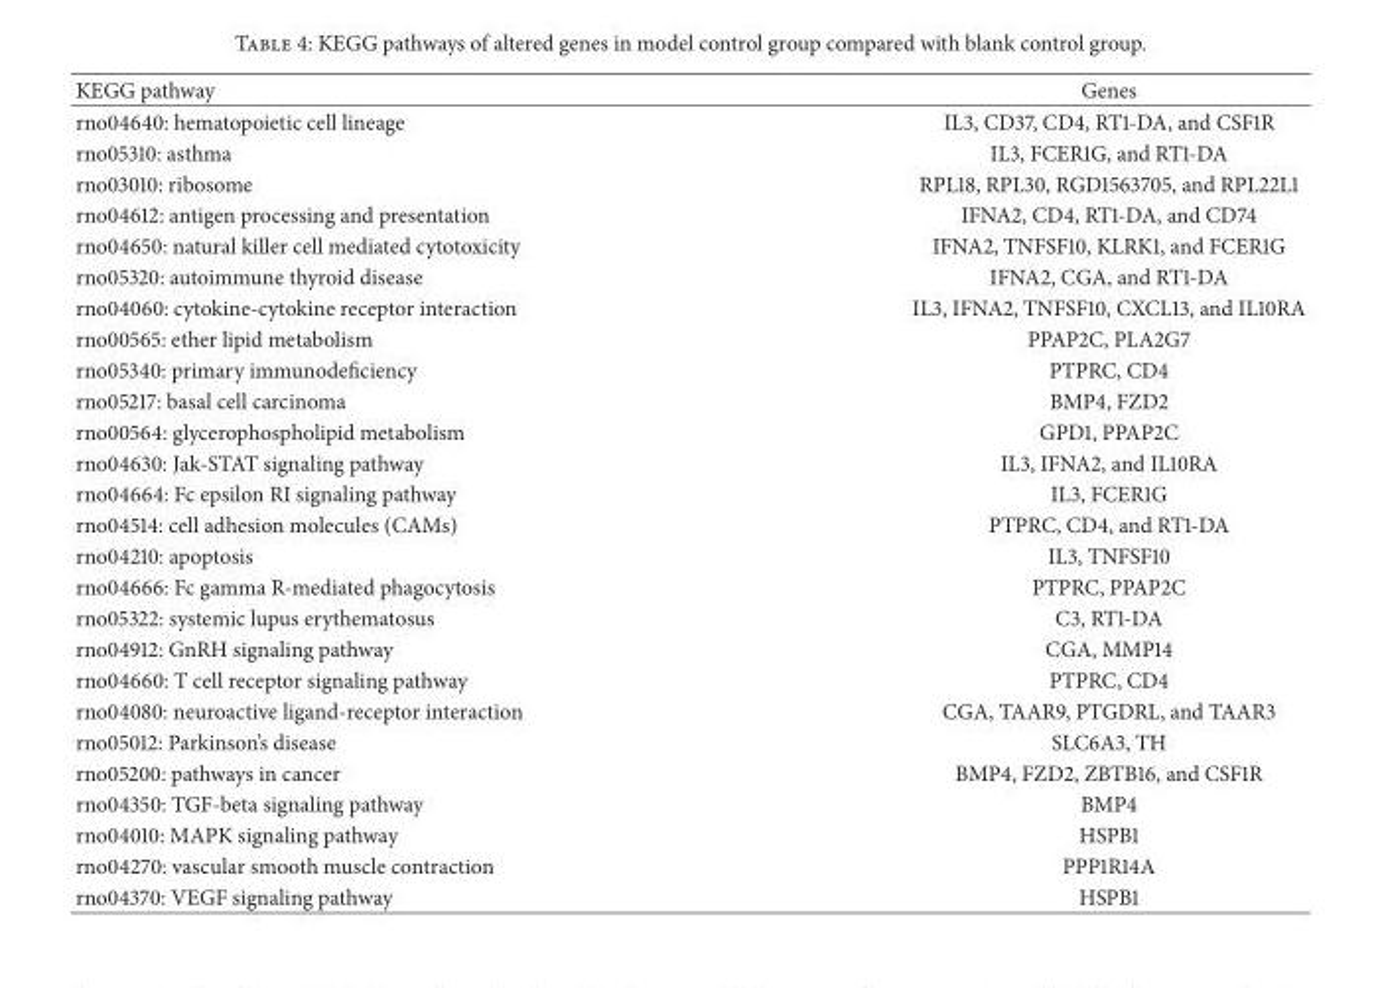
<table><thead><tr><td>KEGG pathway</td><td>Genes</td></tr></thead><tbody><tr><td>rno04640: hematopoietic cell lineage</td><td>IL3, CD37, CD4, RT1-DA, and CSF1R</td></tr><tr><td>rno05310: asthma</td><td>IL3, FCER1G, and RT1-DA</td></tr><tr><td>rno03010: ribosome</td><td>RPL18, RPL30, RGD1563705, and RPL22L1</td></tr><tr><td>rno04612: antigen processing and presentation</td><td>IFNA2, CD4, RT1-DA, and CD74</td></tr><tr><td>rno04650: natural killer cell mediated cytotoxicity</td><td>IFNA2, TNFSF10, KLRK1, and FCER1G</td></tr><tr><td>rno05320: autoimmune thyroid disease</td><td>IFNA2, CGA, and RT1-DA</td></tr><tr><td>rno04060: cytokine-cytokine receptor interaction</td><td>IL3, IFNA2, TNFSF10, CXCL13, and IL10RA</td></tr><tr><td>rno00565: ether lipid metabolism</td><td>PPAP2C, PLA2G7</td></tr><tr><td>rno05340: primary immunodeficiency</td><td>PTPRC, CD4</td></tr><tr><td>rno05217: basal cell carcinoma</td><td>BMP4, FZD2</td></tr><tr><td>rno00564: glycerophospholipid metabolism</td><td>GPD1, PPAP2C</td></tr><tr><td>rno04630: Jak-STAT signaling pathway</td><td>IL3, IFNA2, and IL10RA</td></tr><tr><td>rno04664: Fc epsilon RI signaling pathway</td><td>IL3, FCER1G</td></tr><tr><td>rno04514: cell adhesion molecules (CAMs)</td><td>PTPRC, CD4, and RT1-DA</td></tr><tr><td>rno04210: apoptosis</td><td>IL3, TNFSF10</td></tr><tr><td>rno04666: Fc gamma R-mediated phagocytosis</td><td>PTPRC, PPAP2C</td></tr><tr><td>rno05322: systemic lupus erythematosus</td><td>C3, RT1-DA</td></tr><tr><td>rno04912: GnRH signaling pathway</td><td>CGA, MMP14</td></tr><tr><td>rno04660: T cell receptor signaling pathway</td><td>PTPRC, CD4</td></tr><tr><td>rno04080: neuroactive ligand-receptor interaction</td><td>CGA, TAAR9, PTGDRL, and TAAR3</td></tr><tr><td>rno05012: Parkinson’s disease</td><td>SLC6A3, TH</td></tr><tr><td>rno05200: pathways in cancer</td><td>BMP4, FZD2, ZBTB16, and CSF1R</td></tr><tr><td>rno04350: TGF-beta signaling pathway</td><td>BMP4</td></tr><tr><td>rno04010: MAPK signaling pathway</td><td>HSPB1</td></tr><tr><td>rno04270: vascular smooth muscle contraction</td><td>PPP1R14A</td></tr><tr><td>rno04370: VEGF signaling pathway</td><td>HSPB1</td></tr></tbody></table>